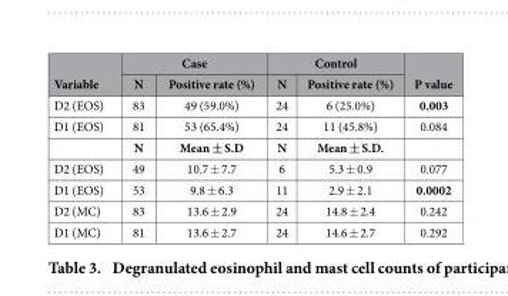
<table><thead><tr><td rowspan="2">Variable</td><td colspan="2">Case</td><td colspan="2">Control</td><td rowspan="2">P value</td></tr><tr><td>N</td><td>Positive rate (%)</td><td>N</td><td>Positive rate (%)</td></tr></thead><tbody><tr><td>D2 (EOS)</td><td>83</td><td>49 (59.0%)</td><td>24</td><td>6 (25.0%)</td><td>0.003</td></tr><tr><td rowspan="2">D1 (EOS)</td><td>81</td><td>53 (65.4%)</td><td>24</td><td>11 (45.8%)</td><td>0.084</td></tr><tr><td>N</td><td>Mean ± S.D</td><td>N</td><td>Mean ± S.D.</td><td></td></tr><tr><td>D2 (EOS)</td><td>49</td><td>10.7 ± 7.7</td><td>6</td><td>5.3 ± 0.9</td><td>0.077</td></tr><tr><td>D1 (EOS)</td><td>53</td><td>9.8 ± 6.3</td><td>11</td><td>2.9 ± 2.1</td><td>0.0002</td></tr><tr><td>D2 (MC)</td><td>83</td><td>13.6 ± 2.9</td><td>24</td><td>14.8 ± 2.4</td><td>0.242</td></tr><tr><td>D1 (MC)</td><td>81</td><td>13.6 ± 2.7</td><td>24</td><td>14.6 ± 2.7</td><td>0.292</td></tr></tbody></table>